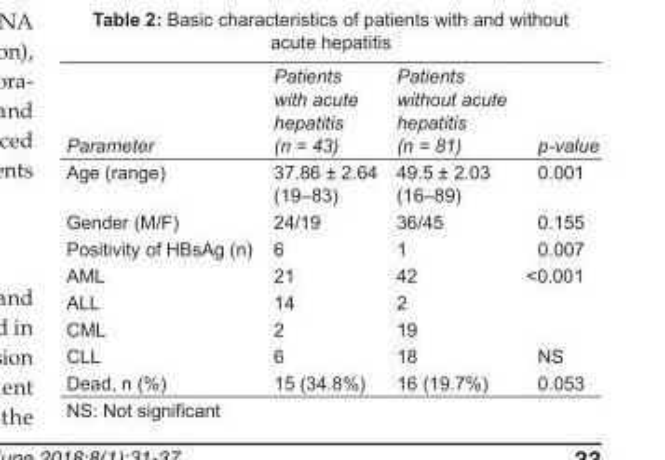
<table><thead><tr><td></td><td>Patients with acute hepatitis</td><td>Patients without acute hepatitis</td><td></td></tr></thead><tbody><tr><td>Parameter</td><td>(n = 43)</td><td>(n = 81)</td><td>p-value</td></tr><tr><td rowspan="2">Age (range)</td><td>37.86 ± 2.64</td><td>49.5 ± 2.03</td><td>0.001</td></tr><tr><td>(19–83)</td><td>(16–89)</td><td></td></tr><tr><td>Gender (M/F)</td><td>24/19</td><td>36/45</td><td>0.155</td></tr><tr><td>Positivity of HBsAg (n)</td><td>6</td><td>1</td><td>0.007</td></tr><tr><td>AML</td><td>21</td><td>42</td><td>&lt;0.001</td></tr><tr><td>ALL</td><td>14</td><td>2</td><td></td></tr><tr><td>CML</td><td>2</td><td>19</td><td></td></tr><tr><td>CLL</td><td>6</td><td>18</td><td>NS</td></tr><tr><td>Dead, n (%)</td><td>15 (34.8%)</td><td>16 (19.7%)</td><td>0.053</td></tr></tbody></table>